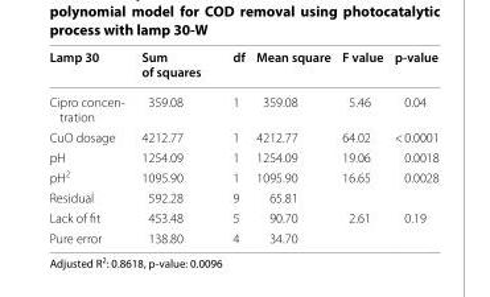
<table><thead><tr><td>Lamp 30</td><td>Sum of squares</td><td>df</td><td>Mean square</td><td>F value</td><td>p-value</td></tr></thead><tbody><tr><td>Cipro concen- tration</td><td>359.08</td><td>1</td><td>359.08</td><td>5.46</td><td>0.04</td></tr><tr><td>CuO dosage</td><td>4212.77</td><td>1</td><td>4212.77</td><td>64.02</td><td>&lt; 0.0001</td></tr><tr><td>pH</td><td>1254.09</td><td>1</td><td>1254.09</td><td>19.06</td><td>0.0018</td></tr><tr><td>pH<sup>2</sup></td><td>1095.90</td><td>1</td><td>1095.90</td><td>16.65</td><td>0.0028</td></tr><tr><td>Residual</td><td>592.28</td><td>9</td><td>65.81</td><td></td><td></td></tr><tr><td>Lack of fit</td><td>453.48</td><td>5</td><td>90.70</td><td>2.61</td><td>0.19</td></tr><tr><td>Pure error</td><td>138.80</td><td>4</td><td>34.70</td><td></td><td></td></tr></tbody></table>